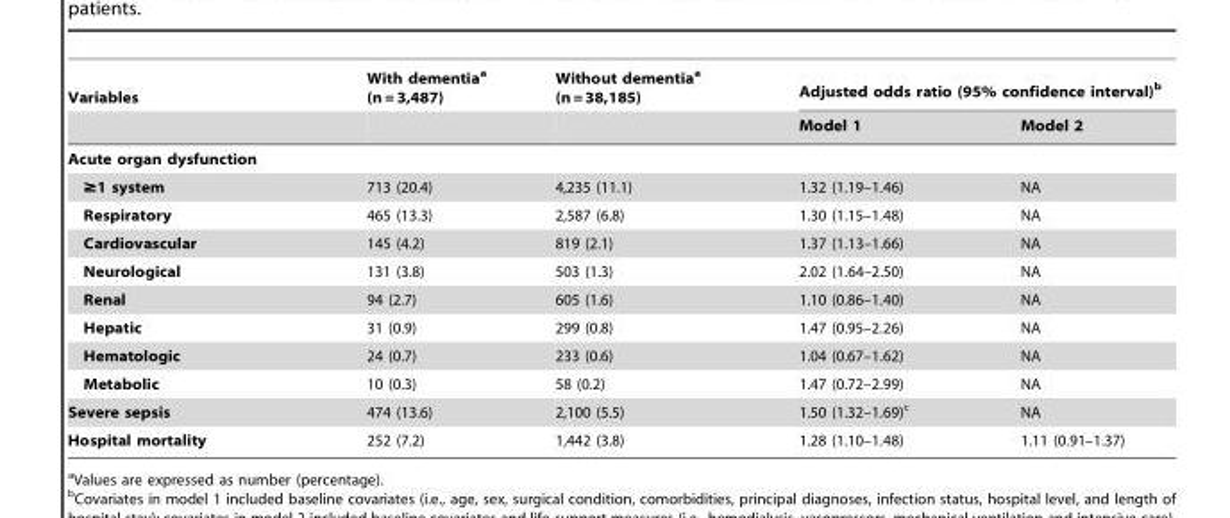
<table><thead><tr><td rowspan="2">Variables</td><td rowspan="2">With dementia<sup>a</sup> (n = 3,487)</td><td rowspan="2">Without dementia<sup>a</sup> (n = 38,185)</td><td colspan="2">Adjusted odds ratio (95% confidence interval)<sup>b</sup></td></tr><tr><td>Model 1</td><td>Model 2</td></tr></thead><tbody><tr><td colspan="5">Acute organ dysfunction</td></tr><tr><td>≥1 system</td><td>713 (20.4)</td><td>4,235 (11.1)</td><td>1.32 (1.19–1.46)</td><td>NA</td></tr><tr><td>Respiratory</td><td>465 (13.3)</td><td>2,587 (6.8)</td><td>1.30 (1.15–1.48)</td><td>NA</td></tr><tr><td>Cardiovascular</td><td>145 (4.2)</td><td>819 (2.1)</td><td>1.37 (1.13–1.66)</td><td>NA</td></tr><tr><td>Neurological</td><td>131 (3.8)</td><td>503 (1.3)</td><td>2.02 (1.64–2.50)</td><td>NA</td></tr><tr><td>Renal</td><td>94 (2.7)</td><td>605 (1.6)</td><td>1.10 (0.86–1.40)</td><td>NA</td></tr><tr><td>Hepatic</td><td>31 (0.9)</td><td>299 (0.8)</td><td>1.47 (0.95–2.26)</td><td>NA</td></tr><tr><td>Hematologic</td><td>24 (0.7)</td><td>233 (0.6)</td><td>1.04 (0.67–1.62)</td><td>NA</td></tr><tr><td>Metabolic</td><td>10 (0.3)</td><td>58 (0.2)</td><td>1.47 (0.72–2.99)</td><td>NA</td></tr><tr><td>Severe sepsis</td><td>474 (13.6)</td><td>2,100 (5.5)</td><td>1.50 (1.32–1.69)<sup>c</sup></td><td>NA</td></tr><tr><td>Hospital mortality</td><td>252 (7.2)</td><td>1,442 (3.8)</td><td>1.28 (1.10–1.48)</td><td>1.11 (0.91–1.37)</td></tr></tbody></table>